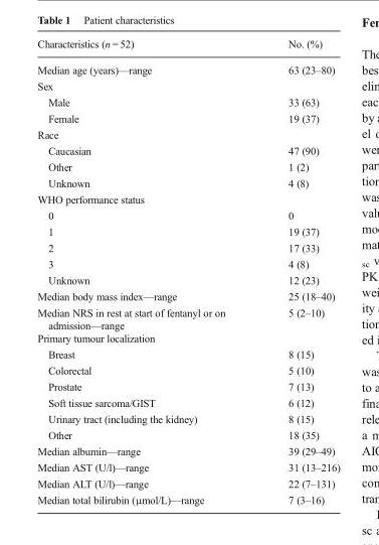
<table><thead><tr><td>Characteristics (n = 52)</td><td>No. (%)</td></tr></thead><tbody><tr><td>Median age (years)—range</td><td>63 (23–80)</td></tr><tr><td colspan="2">Sex</td></tr><tr><td>Male</td><td>33 (63)</td></tr><tr><td>Female</td><td>19 (37)</td></tr><tr><td colspan="2">Race</td></tr><tr><td>Caucasian</td><td>47 (90)</td></tr><tr><td>Other</td><td>1 (2)</td></tr><tr><td>Unknown</td><td>4 (8)</td></tr><tr><td colspan="2">WHO performance status</td></tr><tr><td>0</td><td>0</td></tr><tr><td>1</td><td>19 (37)</td></tr><tr><td>2</td><td>17 (33)</td></tr><tr><td>3</td><td>4 (8)</td></tr><tr><td>Unknown</td><td>12 (23)</td></tr><tr><td>Median body mass index—range</td><td>25 (18–40)</td></tr><tr><td>Median NRS in rest at start of fentanyl or on admission—range</td><td>5 (2–10)</td></tr><tr><td colspan="2">Primary tumour localization</td></tr><tr><td>Breast</td><td>8 (15)</td></tr><tr><td>Colorectal</td><td>5 (10)</td></tr><tr><td>Prostate</td><td>7 (13)</td></tr><tr><td>Soft tissue sarcoma/GIST</td><td>6 (12)</td></tr><tr><td>Urinary tract (including the kidney)</td><td>8 (15)</td></tr><tr><td>Other</td><td>18 (35)</td></tr><tr><td>Median albumin—range</td><td>39 (29–49)</td></tr><tr><td>Median AST (U/l)—range</td><td>31 (13–216)</td></tr><tr><td>Median ALT (U/l)—range</td><td>22 (7–131)</td></tr><tr><td>Median total bilirubin (μmol/L)—range</td><td>7 (3–16)</td></tr></tbody></table>